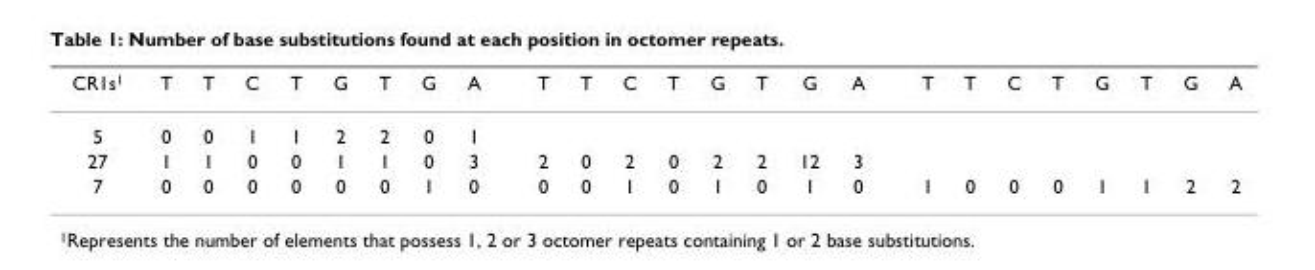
<table><thead><tr><td>CR1s<sup>1</sup></td><td>T</td><td>T</td><td>C</td><td>T</td><td>G</td><td>T</td><td>G</td><td>A</td><td>T</td><td>T</td><td>C</td><td>T</td><td>G</td><td>T</td><td>G</td><td>A</td><td>T</td><td>T</td><td>C</td><td>T</td><td>G</td><td>T</td><td>G</td><td>A</td></tr></thead><tbody><tr><td>5</td><td>0</td><td>0</td><td>1</td><td>1</td><td>2</td><td>2</td><td>0</td><td>1</td><td></td><td></td><td></td><td></td><td></td><td></td><td></td><td></td><td></td><td></td><td></td><td></td><td></td><td></td><td></td><td></td></tr><tr><td>27</td><td>1</td><td>1</td><td>0</td><td>0</td><td>1</td><td>1</td><td>0</td><td>3</td><td>2</td><td>0</td><td>2</td><td>0</td><td>2</td><td>2</td><td>12</td><td>3</td><td></td><td></td><td></td><td></td><td></td><td></td><td></td><td></td></tr><tr><td>7</td><td>0</td><td>0</td><td>0</td><td>0</td><td>0</td><td>0</td><td>1</td><td>0</td><td>0</td><td>0</td><td>1</td><td>0</td><td>1</td><td>0</td><td>1</td><td>0</td><td>1</td><td>0</td><td>0</td><td>0</td><td>1</td><td>1</td><td>2</td><td>2</td></tr></tbody></table>